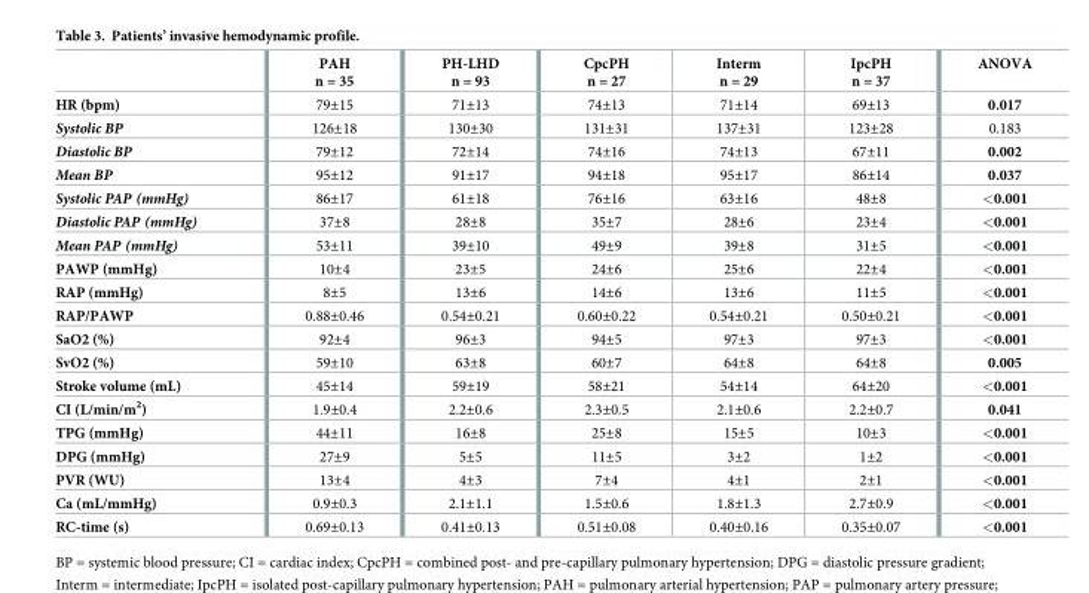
<table><thead><tr><td></td><td>PAH n = 35</td><td>PH-LHD n = 93</td><td>CpcPH n = 27</td><td>Interm n = 29</td><td>IpcPH n = 37</td><td>ANOVA</td></tr></thead><tbody><tr><td>HR (bpm)</td><td>79±15</td><td>71±13</td><td>74±13</td><td>71±14</td><td>69±13</td><td>0.017</td></tr><tr><td>Systolic BP</td><td>126±18</td><td>130±30</td><td>131±31</td><td>137±31</td><td>123±28</td><td>0.183</td></tr><tr><td>Diastolic BP</td><td>79±12</td><td>72±14</td><td>74±16</td><td>74±13</td><td>67±11</td><td>0.002</td></tr><tr><td>Mean BP</td><td>95±12</td><td>91±17</td><td>94±18</td><td>95±17</td><td>86±14</td><td>0.037</td></tr><tr><td>Systolic PAP (mmHg)</td><td>86±17</td><td>61±18</td><td>76±16</td><td>63±16</td><td>48±8</td><td>&lt;0.001</td></tr><tr><td>Diastolic PAP (mmHg)</td><td>37±8</td><td>28±8</td><td>35±7</td><td>28±6</td><td>23±4</td><td>&lt;0.001</td></tr><tr><td>Mean PAP (mmHg)</td><td>53±11</td><td>39±10</td><td>49±9</td><td>39±8</td><td>31±5</td><td>&lt;0.001</td></tr><tr><td>PAWP (mmHg)</td><td>10±4</td><td>23±5</td><td>24±6</td><td>25±6</td><td>22±4</td><td>&lt;0.001</td></tr><tr><td>RAP (mmHg)</td><td>8±5</td><td>13±6</td><td>14±6</td><td>13±6</td><td>11±5</td><td>&lt;0.001</td></tr><tr><td>RAP/PAWP</td><td>0.88±0.46</td><td>0.54±0.21</td><td>0.60±0.22</td><td>0.54±0.21</td><td>0.50±0.21</td><td>&lt;0.001</td></tr><tr><td>SaO2 (%)</td><td>92±4</td><td>96±3</td><td>94±5</td><td>97±3</td><td>97±3</td><td>&lt;0.001</td></tr><tr><td>SvO2 (%)</td><td>59±10</td><td>63±8</td><td>60±7</td><td>64±8</td><td>64±8</td><td>0.005</td></tr><tr><td>Stroke volume (mL)</td><td>45±14</td><td>59±19</td><td>58±21</td><td>54±14</td><td>64±20</td><td>&lt;0.001</td></tr><tr><td>CI (L/min/m<sup>2</sup>)</td><td>1.9±0.4</td><td>2.2±0.6</td><td>2.3±0.5</td><td>2.1±0.6</td><td>2.2±0.7</td><td>0.041</td></tr><tr><td>TPG (mmHg)</td><td>44±11</td><td>16±8</td><td>25±8</td><td>15±5</td><td>10±3</td><td>&lt;0.001</td></tr><tr><td>DPG (mmHg)</td><td>27±9</td><td>5±5</td><td>11±5</td><td>3±2</td><td>1±2</td><td>&lt;0.001</td></tr><tr><td>PVR (WU)</td><td>13±4</td><td>4±3</td><td>7±4</td><td>4±1</td><td>2±1</td><td>&lt;0.001</td></tr><tr><td>Ca (mL/mmHg)</td><td>0.9±0.3</td><td>2.1±1.1</td><td>1.5±0.6</td><td>1.8±1.3</td><td>2.7±0.9</td><td>&lt;0.001</td></tr><tr><td>RC-time (s)</td><td>0.69±0.13</td><td>0.41±0.13</td><td>0.51±0.08</td><td>0.40±0.16</td><td>0.35±0.07</td><td>&lt;0.001</td></tr></tbody></table>